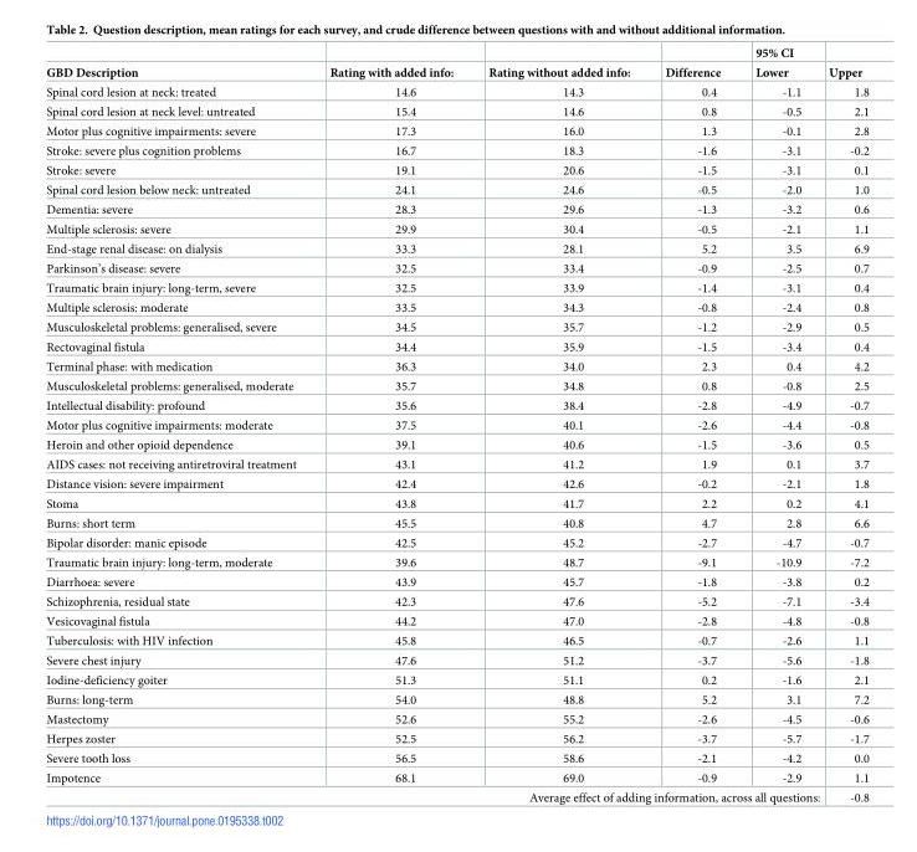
<table><thead><tr><td rowspan="2">GBD Description</td><td rowspan="2">Rating with added info:</td><td rowspan="2">Rating without added info:</td><td rowspan="2">Difference</td><td rowspan="2">95% CI Lower</td><td rowspan="2">Upper</td></tr><tr></tr></thead><tbody><tr><td>Spinal cord lesion at neck: treated</td><td>14.6</td><td>14.3</td><td>0.4</td><td>-1.1</td><td>1.8</td></tr><tr><td>Spinal cord lesion at neck level: untreated</td><td>15.4</td><td>14.6</td><td>0.8</td><td>-0.5</td><td>2.1</td></tr><tr><td>Motor plus cognitive impairments: severe</td><td>17.3</td><td>16.0</td><td>1.3</td><td>-0.1</td><td>2.8</td></tr><tr><td>Stroke: severe plus cognition problems</td><td>16.7</td><td>18.3</td><td>-1.6</td><td>-3.1</td><td>-0.2</td></tr><tr><td>Stroke: severe</td><td>19.1</td><td>20.6</td><td>-1.5</td><td>-3.1</td><td>0.1</td></tr><tr><td>Spinal cord lesion below neck: untreated</td><td>24.1</td><td>24.6</td><td>-0.5</td><td>-2.0</td><td>1.0</td></tr><tr><td>Dementia: severe</td><td>28.3</td><td>29.6</td><td>-1.3</td><td>-3.2</td><td>0.6</td></tr><tr><td>Multiple sclerosis: severe</td><td>29.9</td><td>30.4</td><td>-0.5</td><td>-2.1</td><td>1.1</td></tr><tr><td>End-stage renal disease: on dialysis</td><td>33.3</td><td>28.1</td><td>5.2</td><td>3.5</td><td>6.9</td></tr><tr><td>Parkinson’s disease: severe</td><td>32.5</td><td>33.4</td><td>-0.9</td><td>-2.5</td><td>0.7</td></tr><tr><td>Traumatic brain injury: long-term, severe</td><td>32.5</td><td>33.9</td><td>-1.4</td><td>-3.1</td><td>0.4</td></tr><tr><td>Multiple sclerosis: moderate</td><td>33.5</td><td>34.3</td><td>-0.8</td><td>-2.4</td><td>0.8</td></tr><tr><td>Musculoskeletal problems: generalised, severe</td><td>34.5</td><td>35.7</td><td>-1.2</td><td>-2.9</td><td>0.5</td></tr><tr><td>Rectovaginal fistula</td><td>34.4</td><td>35.9</td><td>-1.5</td><td>-3.4</td><td>0.4</td></tr><tr><td>Terminal phase: with medication</td><td>36.3</td><td>34.0</td><td>2.3</td><td>0.4</td><td>4.2</td></tr><tr><td>Musculoskeletal problems: generalised, moderate</td><td>35.7</td><td>34.8</td><td>0.8</td><td>-0.8</td><td>2.5</td></tr><tr><td>Intellectual disability: profound</td><td>35.6</td><td>38.4</td><td>-2.8</td><td>-4.9</td><td>-0.7</td></tr><tr><td>Motor plus cognitive impairments: moderate</td><td>37.5</td><td>40.1</td><td>-2.6</td><td>-4.4</td><td>-0.8</td></tr><tr><td>Heroin and other opioid dependence</td><td>39.1</td><td>40.6</td><td>-1.5</td><td>-3.6</td><td>0.5</td></tr><tr><td>AIDS cases: not receiving antiretroviral treatment</td><td>43.1</td><td>41.2</td><td>1.9</td><td>0.1</td><td>3.7</td></tr><tr><td>Distance vision: severe impairment</td><td>42.4</td><td>42.6</td><td>-0.2</td><td>-2.1</td><td>1.8</td></tr><tr><td>Stoma</td><td>43.8</td><td>41.7</td><td>2.2</td><td>0.2</td><td>4.1</td></tr><tr><td>Burns: short term</td><td>45.5</td><td>40.8</td><td>4.7</td><td>2.8</td><td>6.6</td></tr><tr><td>Bipolar disorder: manic episode</td><td>42.5</td><td>45.2</td><td>-2.7</td><td>-4.7</td><td>-0.7</td></tr><tr><td>Traumatic brain injury: long-term, moderate</td><td>39.6</td><td>48.7</td><td>-9.1</td><td>-10.9</td><td>-7.2</td></tr><tr><td>Diarrhoea: severe</td><td>43.9</td><td>45.7</td><td>-1.8</td><td>-3.8</td><td>0.2</td></tr><tr><td>Schizophrenia, residual state</td><td>42.3</td><td>47.6</td><td>-5.2</td><td>-7.1</td><td>-3.4</td></tr><tr><td>Vesicovaginal fistula</td><td>44.2</td><td>47.0</td><td>-2.8</td><td>-4.8</td><td>-0.8</td></tr><tr><td>Tuberculosis: with HIV infection</td><td>45.8</td><td>46.5</td><td>-0.7</td><td>-2.6</td><td>1.1</td></tr><tr><td>Severe chest injury</td><td>47.6</td><td>51.2</td><td>-3.7</td><td>-5.6</td><td>-1.8</td></tr><tr><td>Iodine-deficiency goiter</td><td>51.3</td><td>51.1</td><td>0.2</td><td>-1.6</td><td>2.1</td></tr><tr><td>Burns: long-term</td><td>54.0</td><td>48.8</td><td>5.2</td><td>3.1</td><td>7.2</td></tr><tr><td>Mastectomy</td><td>52.6</td><td>55.2</td><td>-2.6</td><td>-4.5</td><td>-0.6</td></tr><tr><td>Herpes zoster</td><td>52.5</td><td>56.2</td><td>-3.7</td><td>-5.7</td><td>-1.7</td></tr><tr><td>Severe tooth loss</td><td>56.5</td><td>58.6</td><td>-2.1</td><td>-4.2</td><td>0.0</td></tr><tr><td>Impotence</td><td>68.1</td><td>69.0</td><td>-0.9</td><td>-2.9</td><td>1.1</td></tr><tr><td colspan="5">Average effect of adding information, across all questions:</td><td>-0.8</td></tr></tbody></table>